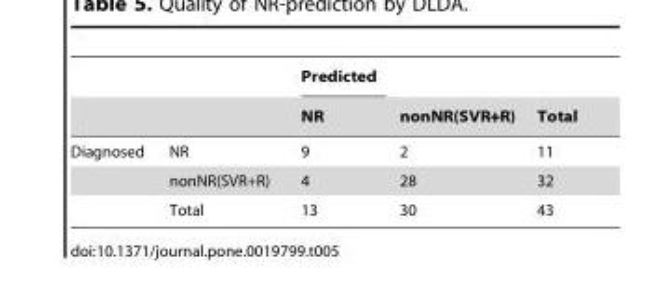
<table><thead><tr><td rowspan="2"></td><td rowspan="2"></td><td rowspan="2">Predicted NR</td><td rowspan="2">nonNR(SVR+R)</td><td rowspan="2">Total</td></tr><tr></tr></thead><tbody><tr><td rowspan="3">Diagnosed</td><td>NR</td><td>9</td><td>2</td><td>11</td></tr><tr><td>nonNR(SVR+R)</td><td>4</td><td>28</td><td>32</td></tr><tr><td>Total</td><td>13</td><td>30</td><td>43</td></tr></tbody></table>